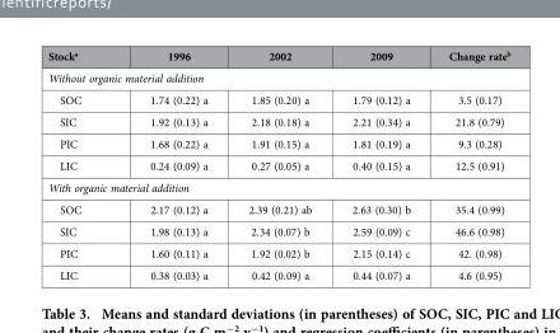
<table><thead><tr><td>Stock<sup>a</sup></td><td>1996</td><td>2002</td><td>2009</td><td>Change rate<sup>b</sup></td></tr></thead><tbody><tr><td colspan="5">Without organic material addition</td></tr><tr><td>SOC</td><td>1.74 (0.22) a</td><td>1.85 (0.20) a</td><td>1.79 (0.12) a</td><td>3.5 (0.17)</td></tr><tr><td>SIC</td><td>1.92 (0.13) a</td><td>2.18 (0.18) a</td><td>2.21 (0.34) a</td><td>21.8 (0.79)</td></tr><tr><td>PIC</td><td>1.68 (0.22) a</td><td>1.91 (0.15) a</td><td>1.81 (0.19) a</td><td>9.3 (0.28)</td></tr><tr><td>LIC</td><td>0.24 (0.09) a</td><td>0.27 (0.05) a</td><td>0.40 (0.15) a</td><td>12.5 (0.91)</td></tr><tr><td colspan="5">With organic material addition</td></tr><tr><td>SOC</td><td>2.17 (0.12) a</td><td>2.39 (0.21) ab</td><td>2.63 (0.30) b</td><td>35.4 (0.99)</td></tr><tr><td>SIC</td><td>1.98 (0.13) a</td><td>2.34 (0.07) b</td><td>2.59 (0.09) c</td><td>46.6 (0.98)</td></tr><tr><td>PIC</td><td>1.60 (0.11) a</td><td>1.92 (0.02) b</td><td>2.15 (0.14) c</td><td>42. (0.98)</td></tr><tr><td>LIC</td><td>0.38 (0.03) a</td><td>0.42 (0.09) a</td><td>0.44 (0.07) a</td><td>4.6 (0.95)</td></tr></tbody></table>